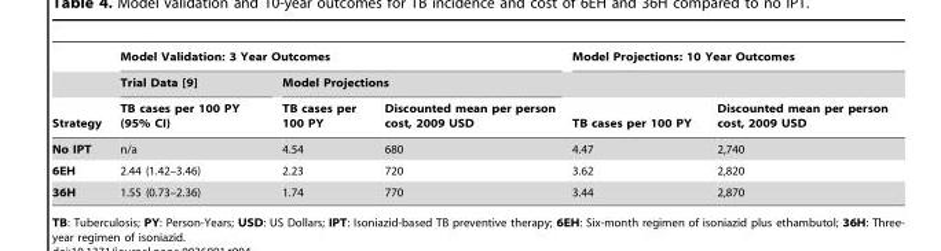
<table><thead><tr><td rowspan="3">Strategy</td><td colspan="3">Model Validation: 3 Year Outcomes</td><td colspan="2">Model Projections: 10 Year Outcomes</td></tr><tr><td rowspan="2">Trial Data [9] TB cases per 100 PY (95% CI)</td><td colspan="2">Model Projections</td><td rowspan="2">TB cases per 100 PY</td><td rowspan="2">Discounted mean per person cost, 2009 USD</td></tr><tr><td>TB cases per 100 PY</td><td>Discounted mean per person cost, 2009 USD</td></tr></thead><tbody><tr><td>No IPT</td><td>n/a</td><td>4.54</td><td>680</td><td>4.47</td><td>2,740</td></tr><tr><td>6EH</td><td>2.44 (1.42–3.46)</td><td>2.23</td><td>720</td><td>3.62</td><td>2,820</td></tr><tr><td>36H</td><td>1.55 (0.73–2.36)</td><td>1.74</td><td>770</td><td>3.44</td><td>2,870</td></tr></tbody></table>